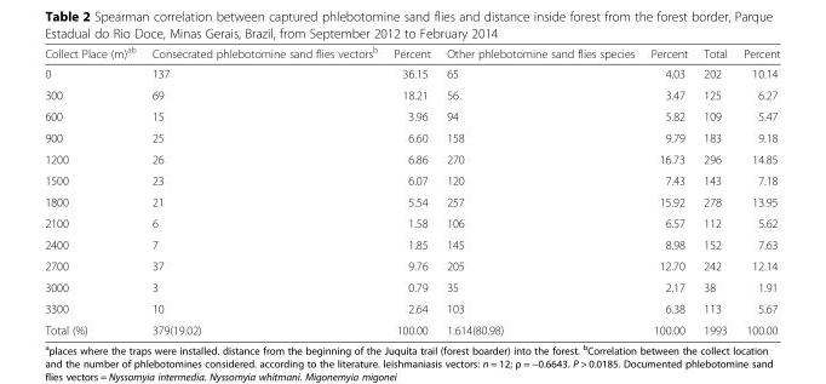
<table><thead><tr><td>Collect Place (m)<sup>ab</sup></td><td>Consecrated phlebotomine sand flies vectors<sup>b</sup></td><td>Percent</td><td>Other phlebotomine sand flies species</td><td>Percent</td><td>Total</td><td>Percent</td></tr></thead><tbody><tr><td>0</td><td>137</td><td>36.15</td><td>65</td><td>4.03</td><td>202</td><td>10.14</td></tr><tr><td>300</td><td>69</td><td>18.21</td><td>56</td><td>3.47</td><td>125</td><td>6.27</td></tr><tr><td>600</td><td>15</td><td>3.96</td><td>94</td><td>5.82</td><td>109</td><td>5.47</td></tr><tr><td>900</td><td>25</td><td>6.60</td><td>158</td><td>9.79</td><td>183</td><td>9.18</td></tr><tr><td>1200</td><td>26</td><td>6.86</td><td>270</td><td>16.73</td><td>296</td><td>14.85</td></tr><tr><td>1500</td><td>23</td><td>6.07</td><td>120</td><td>7.43</td><td>143</td><td>7.18</td></tr><tr><td>1800</td><td>21</td><td>5.54</td><td>257</td><td>15.92</td><td>278</td><td>13.95</td></tr><tr><td>2100</td><td>6</td><td>1.58</td><td>106</td><td>6.57</td><td>112</td><td>5.62</td></tr><tr><td>2400</td><td>7</td><td>1.85</td><td>145</td><td>8.98</td><td>152</td><td>7.63</td></tr><tr><td>2700</td><td>37</td><td>9.76</td><td>205</td><td>12.70</td><td>242</td><td>12.14</td></tr><tr><td>3000</td><td>3</td><td>0.79</td><td>35</td><td>2.17</td><td>38</td><td>1.91</td></tr><tr><td>3300</td><td>10</td><td>2.64</td><td>103</td><td>6.38</td><td>113</td><td>5.67</td></tr><tr><td>Total (%)</td><td>379(19.02)</td><td>100.00</td><td>1.614(80.98)</td><td>100.00</td><td>1993</td><td>100.00</td></tr></tbody></table>